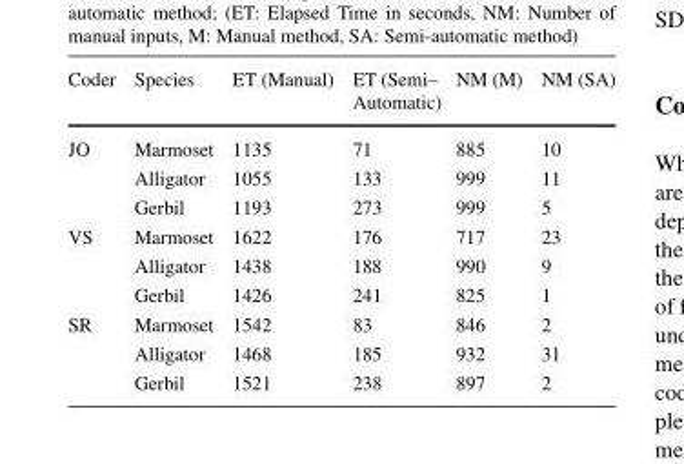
<table><thead><tr><td>Coder</td><td>Species</td><td>ET (Manual)</td><td>ET (Semi– Automatic)</td><td>NM (M)</td><td>NM (SA)</td></tr></thead><tbody><tr><td rowspan="3">JO</td><td>Marmoset</td><td>1135</td><td>71</td><td>885</td><td>10</td></tr><tr><td>Alligator</td><td>1055</td><td>133</td><td>999</td><td>11</td></tr><tr><td>Gerbil</td><td>1193</td><td>273</td><td>999</td><td>5</td></tr><tr><td rowspan="3">VS</td><td>Marmoset</td><td>1622</td><td>176</td><td>717</td><td>23</td></tr><tr><td>Alligator</td><td>1438</td><td>188</td><td>990</td><td>9</td></tr><tr><td>Gerbil</td><td>1426</td><td>241</td><td>825</td><td>1</td></tr><tr><td rowspan="3">SR</td><td>Marmoset</td><td>1542</td><td>83</td><td>846</td><td>2</td></tr><tr><td>Alligator</td><td>1468</td><td>185</td><td>932</td><td>31</td></tr><tr><td>Gerbil</td><td>1521</td><td>238</td><td>897</td><td>2</td></tr></tbody></table>